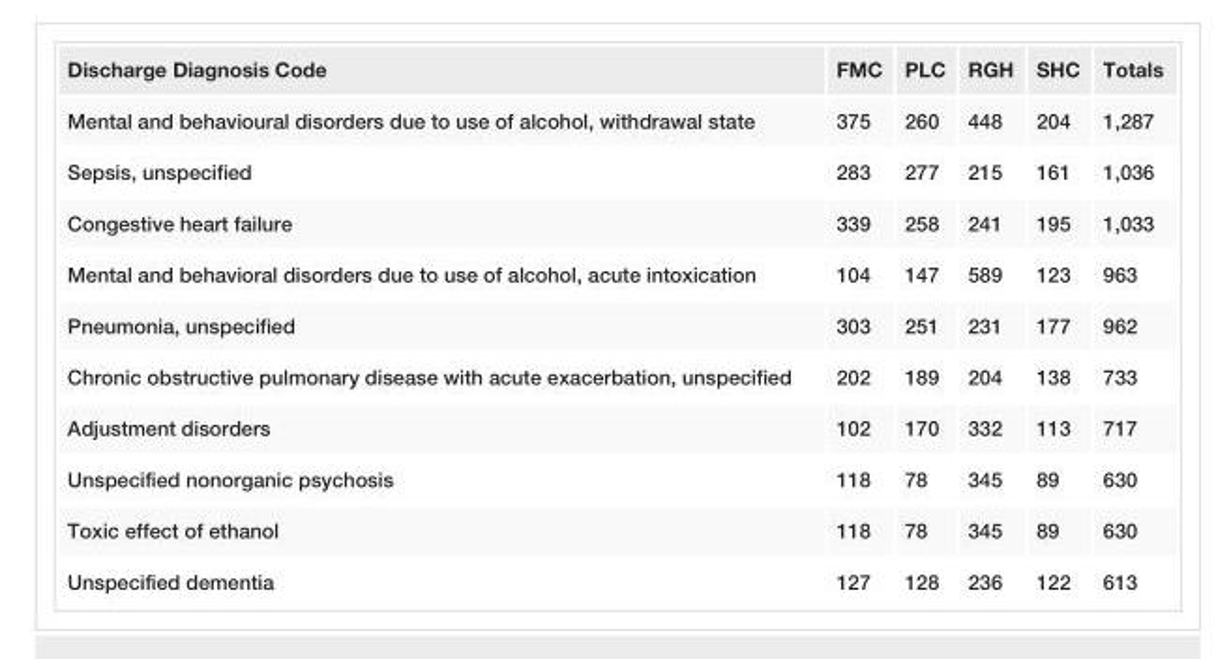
<table><tbody><tr><td>Discharge Diagnosis Code</td><td>FMC</td><td>PLC</td><td>RGH</td><td>SHC</td><td>Totals</td></tr><tr><td>Mental and behavioural disorders due to use of alcohol, withdrawal state</td><td>375</td><td>260</td><td>448</td><td>204</td><td>1,287</td></tr><tr><td>Sepsis, unspecified</td><td>283</td><td>277</td><td>215</td><td>161</td><td>1,036</td></tr><tr><td>Congestive heart failure</td><td>339</td><td>258</td><td>241</td><td>195</td><td>1,033</td></tr><tr><td>Mental and behavioral disorders due to use of alcohol, acute intoxication</td><td>104</td><td>147</td><td>589</td><td>123</td><td>963</td></tr><tr><td>Pneumonia, unspecified</td><td>303</td><td>251</td><td>231</td><td>177</td><td>962</td></tr><tr><td>Chronic obstructive pulmonary disease with acute exacerbation, unspecified</td><td>202</td><td>189</td><td>204</td><td>138</td><td>733</td></tr><tr><td>Adjustment disorders</td><td>102</td><td>170</td><td>332</td><td>113</td><td>717</td></tr><tr><td>Unspecified nonorganic psychosis</td><td>118</td><td>78</td><td>345</td><td>89</td><td>630</td></tr><tr><td>Toxic effect of ethanol</td><td>118</td><td>78</td><td>345</td><td>89</td><td>630</td></tr><tr><td>Unspecified dementia</td><td>127</td><td>128</td><td>236</td><td>122</td><td>613</td></tr></tbody></table>